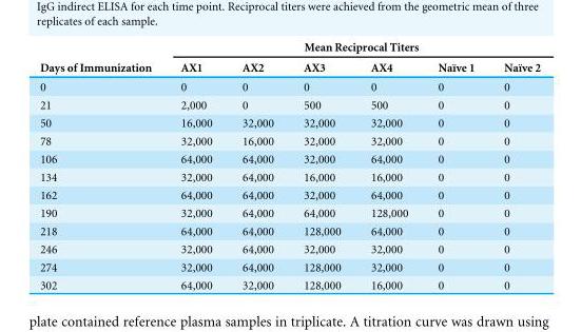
<table><thead><tr><td rowspan="2">Days of Immunization</td><td colspan="6">Mean Reciprocal Titers</td></tr><tr><td>AX1</td><td>AX2</td><td>AX3</td><td>AX4</td><td>Naïve 1</td><td>Naïve 2</td></tr></thead><tbody><tr><td>0</td><td>0</td><td>0</td><td>0</td><td>0</td><td>0</td><td>0</td></tr><tr><td>21</td><td>2,000</td><td>0</td><td>500</td><td>500</td><td>0</td><td>0</td></tr><tr><td>50</td><td>16,000</td><td>32,000</td><td>32,000</td><td>32,000</td><td>0</td><td>0</td></tr><tr><td>78</td><td>32,000</td><td>16,000</td><td>32,000</td><td>32,000</td><td>0</td><td>0</td></tr><tr><td>106</td><td>64,000</td><td>64,000</td><td>32,000</td><td>64,000</td><td>0</td><td>0</td></tr><tr><td>134</td><td>32,000</td><td>64,000</td><td>16,000</td><td>16,000</td><td>0</td><td>0</td></tr><tr><td>162</td><td>64,000</td><td>64,000</td><td>32,000</td><td>64,000</td><td>0</td><td>0</td></tr><tr><td>190</td><td>32,000</td><td>64,000</td><td>64,000</td><td>128,000</td><td>0</td><td>0</td></tr><tr><td>218</td><td>64,000</td><td>64,000</td><td>128,000</td><td>64,000</td><td>0</td><td>0</td></tr><tr><td>246</td><td>32,000</td><td>64,000</td><td>32,000</td><td>32,000</td><td>0</td><td>0</td></tr><tr><td>274</td><td>32,000</td><td>64,000</td><td>128,000</td><td>32,000</td><td>0</td><td>0</td></tr><tr><td>302</td><td>64,000</td><td>32,000</td><td>128,000</td><td>16,000</td><td>0</td><td>0</td></tr></tbody></table>